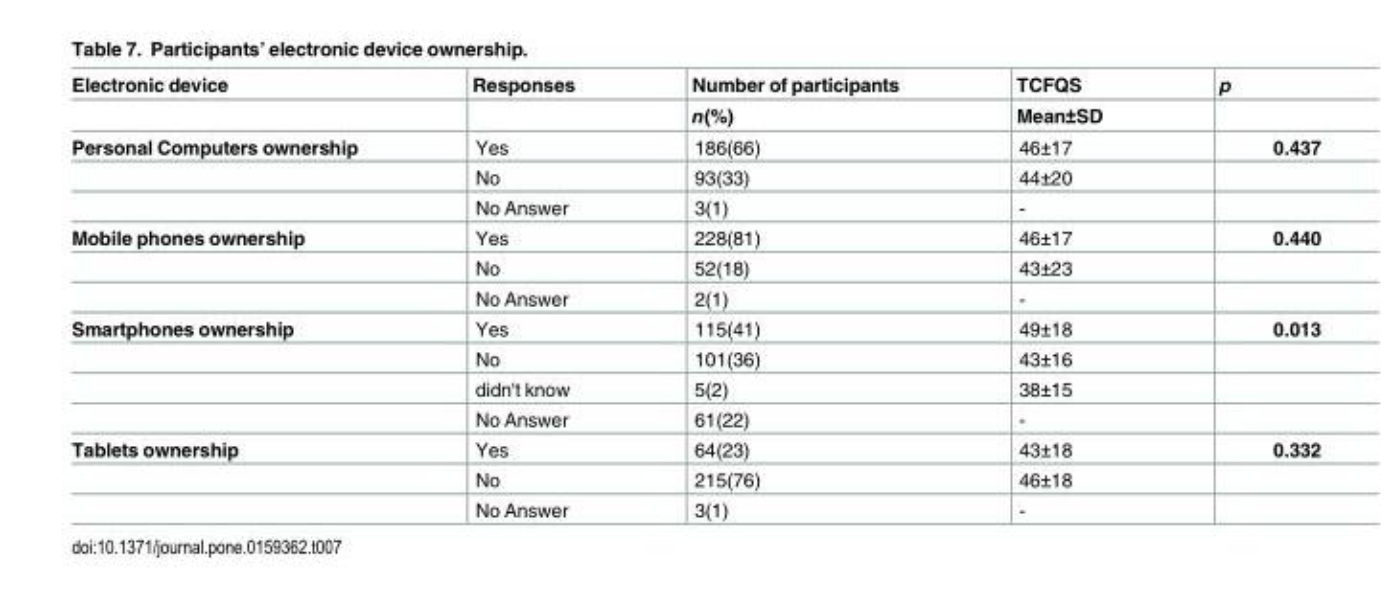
<table><thead><tr><td rowspan="2">Electronic device</td><td rowspan="2">Responses</td><td rowspan="2">Number of participants n(%)</td><td rowspan="2">TCFQS Mean±SD</td><td rowspan="2">p</td></tr><tr></tr></thead><tbody><tr><td rowspan="3">Personal Computers ownership</td><td>Yes</td><td>186(66)</td><td>46±17</td><td>0.437</td></tr><tr><td>No</td><td>93(33)</td><td>44±20</td><td></td></tr><tr><td>No Answer</td><td>3(1)</td><td>-</td><td></td></tr><tr><td rowspan="3">Mobile phones ownership</td><td>Yes</td><td>228(81)</td><td>46±17</td><td>0.440</td></tr><tr><td>No</td><td>52(18)</td><td>43±23</td><td></td></tr><tr><td>No Answer</td><td>2(1)</td><td>-</td><td></td></tr><tr><td rowspan="4">Smartphones ownership</td><td>Yes</td><td>115(41)</td><td>49±18</td><td>0.013</td></tr><tr><td>No</td><td>101(36)</td><td>43±16</td><td></td></tr><tr><td>didn&#x27;t know</td><td>5(2)</td><td>38±15</td><td></td></tr><tr><td>No Answer</td><td>61(22)</td><td>-</td><td></td></tr><tr><td rowspan="3">Tablets ownership</td><td>Yes</td><td>64(23)</td><td>43±18</td><td>0.332</td></tr><tr><td>No</td><td>215(76)</td><td>46±18</td><td></td></tr><tr><td>No Answer</td><td>3(1)</td><td>-</td><td></td></tr></tbody></table>